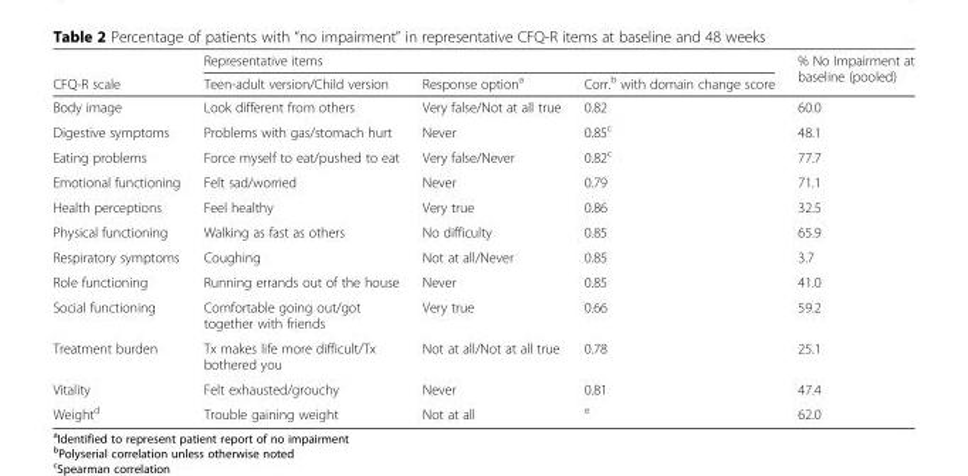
<table><thead><tr><td rowspan="2">CFQ-R scale</td><td colspan="3">Representative items</td><td rowspan="2">% No Impairment at baseline (pooled)</td></tr><tr><td>Teen-adult version/Child version</td><td>Response option<sup>a</sup></td><td>Corr.<sup>b</sup> with domain change score</td></tr></thead><tbody><tr><td>Body image</td><td>Look different from others</td><td>Very false/Not at all true</td><td>0.82</td><td>60.0</td></tr><tr><td>Digestive symptoms</td><td>Problems with gas/stomach hurt</td><td>Never</td><td>0.85<sup>c</sup></td><td>48.1</td></tr><tr><td>Eating problems</td><td>Force myself to eat/pushed to eat</td><td>Very false/Never</td><td>0.82<sup>c</sup></td><td>77.7</td></tr><tr><td>Emotional functioning</td><td>Felt sad/worried</td><td>Never</td><td>0.79</td><td>71.1</td></tr><tr><td>Health perceptions</td><td>Feel healthy</td><td>Very true</td><td>0.86</td><td>32.5</td></tr><tr><td>Physical functioning</td><td>Walking as fast as others</td><td>No difficulty</td><td>0.85</td><td>65.9</td></tr><tr><td>Respiratory symptoms</td><td>Coughing</td><td>Not at all/Never</td><td>0.85</td><td>3.7</td></tr><tr><td>Role functioning</td><td>Running errands out of the house</td><td>Never</td><td>0.85</td><td>41.0</td></tr><tr><td>Social functioning</td><td>Comfortable going out/got together with friends</td><td>Very true</td><td>0.66</td><td>59.2</td></tr><tr><td>Treatment burden</td><td>Tx makes life more difficult/Tx bothered you</td><td>Not at all/Not at all true</td><td>0.78</td><td>25.1</td></tr><tr><td>Vitality</td><td>Felt exhausted/grouchy</td><td>Never</td><td>0.81</td><td>47.4</td></tr><tr><td>Weight<sup>d</sup></td><td>Trouble gaining weight</td><td>Not at all</td><td><sup>e</sup></td><td>62.0</td></tr></tbody></table>